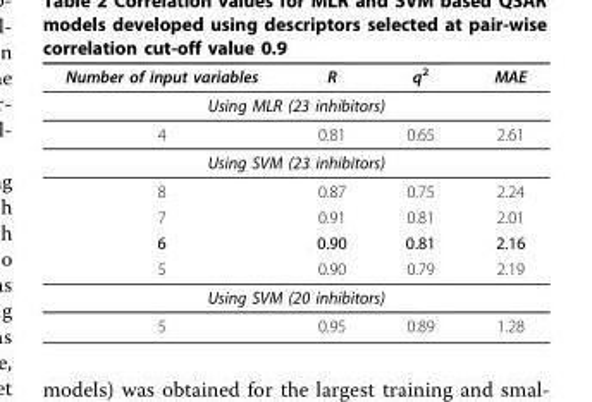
<table><thead><tr><td>Number of input variables</td><td>R</td><td>q<sup>2</sup></td><td>MAE</td></tr></thead><tbody><tr><td colspan="4">Using MLR (23 inhibitors)</td></tr><tr><td>4</td><td>0.81</td><td>0.65</td><td>2.61</td></tr><tr><td colspan="4">Using SVM (23 inhibitors)</td></tr><tr><td>8</td><td>0.87</td><td>0.75</td><td>2.24</td></tr><tr><td>7</td><td>0.91</td><td>0.81</td><td>2.01</td></tr><tr><td>6</td><td>0.90</td><td>0.81</td><td>2.16</td></tr><tr><td>5</td><td>0.90</td><td>0.79</td><td>2.19</td></tr><tr><td colspan="4">Using SVM (20 inhibitors)</td></tr><tr><td>5</td><td>0.95</td><td>0.89</td><td>1.28</td></tr></tbody></table>